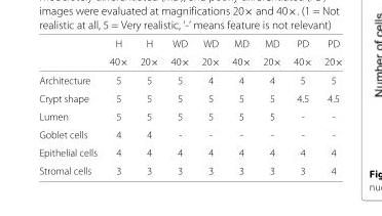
<table><thead><tr><td rowspan="2"></td><td rowspan="2">H 40×</td><td rowspan="2">H 20×</td><td rowspan="2">WD 40×</td><td rowspan="2">WD 20×</td><td rowspan="2">MD 40×</td><td rowspan="2">MD 20×</td><td rowspan="2">PD 40×</td><td rowspan="2">PD 20×</td></tr><tr></tr></thead><tbody><tr><td>Architecture</td><td>5</td><td>5</td><td>5</td><td>4</td><td>4</td><td>4</td><td>5</td><td>5</td></tr><tr><td>Crypt shape</td><td>5</td><td>5</td><td>5</td><td>5</td><td>5</td><td>5</td><td>4.5</td><td>4.5</td></tr><tr><td>Lumen</td><td>5</td><td>5</td><td>5</td><td>5</td><td>5</td><td>5</td><td>-</td><td>-</td></tr><tr><td>Goblet cells</td><td>4</td><td>4</td><td>-</td><td>-</td><td>-</td><td>-</td><td>-</td><td>-</td></tr><tr><td>Epithelial cells</td><td>4</td><td>4</td><td>4</td><td>4</td><td>4</td><td>4</td><td>4</td><td>4</td></tr><tr><td>Stromal cells</td><td>3</td><td>3</td><td>3</td><td>3</td><td>3</td><td>3</td><td>3</td><td>4</td></tr></tbody></table>